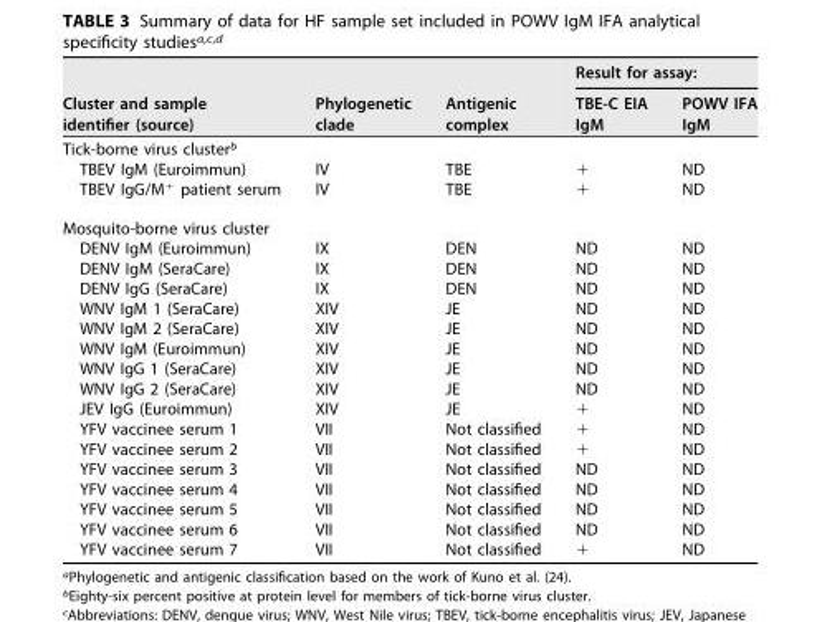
<table><thead><tr><td rowspan="2">Cluster and sample identifier (source)</td><td rowspan="2">Phylogenetic clade</td><td rowspan="2">Antigenic complex</td><td colspan="2">Result for assay:</td></tr><tr><td>TBE-C EIA IgM</td><td>POWV IFA IgM</td></tr></thead><tbody><tr><td colspan="5">Tick-borne virus cluster<sup>b</sup></td></tr><tr><td>TBEV IgM (Euroimmun)</td><td>IV</td><td>TBE</td><td>+</td><td>ND</td></tr><tr><td>TBEV IgG/M<sup>+</sup> patient serum</td><td>IV</td><td>TBE</td><td>+</td><td>ND</td></tr><tr><td colspan="5">Mosquito-borne virus cluster</td></tr><tr><td>DENV IgM (Euroimmun)</td><td>IX</td><td>DEN</td><td>ND</td><td>ND</td></tr><tr><td>DENV IgM (SeraCare)</td><td>IX</td><td>DEN</td><td>ND</td><td>ND</td></tr><tr><td>DENV IgG (SeraCare)</td><td>IX</td><td>DEN</td><td>ND</td><td>ND</td></tr><tr><td>WNV IgM 1 (SeraCare)</td><td>XIV</td><td>JE</td><td>ND</td><td>ND</td></tr><tr><td>WNV IgM 2 (SeraCare)</td><td>XIV</td><td>JE</td><td>ND</td><td>ND</td></tr><tr><td>WNV IgM (Euroimmun)</td><td>XIV</td><td>JE</td><td>ND</td><td>ND</td></tr><tr><td>WNV IgG 1 (SeraCare)</td><td>XIV</td><td>JE</td><td>ND</td><td>ND</td></tr><tr><td>WNV IgG 2 (SeraCare)</td><td>XIV</td><td>JE</td><td>ND</td><td>ND</td></tr><tr><td>JEV IgG (Euroimmun)</td><td>XIV</td><td>JE</td><td>+</td><td>ND</td></tr><tr><td>YFV vaccinee serum 1</td><td>VII</td><td>Not classified</td><td>+</td><td>ND</td></tr><tr><td>YFV vaccinee serum 2</td><td>VII</td><td>Not classified</td><td>+</td><td>ND</td></tr><tr><td>YFV vaccinee serum 3</td><td>VII</td><td>Not classified</td><td>ND</td><td>ND</td></tr><tr><td>YFV vaccinee serum 4</td><td>VII</td><td>Not classified</td><td>ND</td><td>ND</td></tr><tr><td>YFV vaccinee serum 5</td><td>VII</td><td>Not classified</td><td>ND</td><td>ND</td></tr><tr><td>YFV vaccinee serum 6</td><td>VII</td><td>Not classified</td><td>ND</td><td>ND</td></tr><tr><td>YFV vaccinee serum 7</td><td>VII</td><td>Not classified</td><td>+</td><td>ND</td></tr></tbody></table>